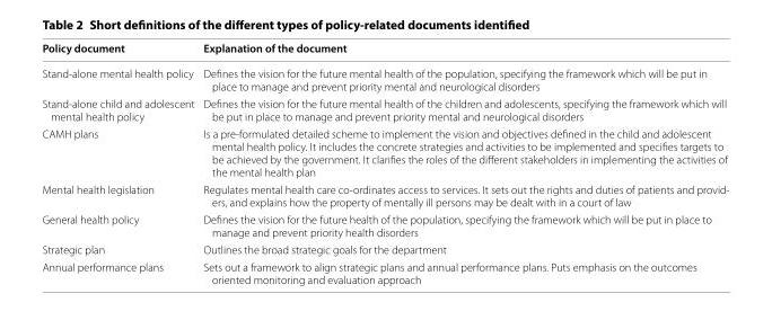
<table><thead><tr><td>Policy document</td><td>Explanation of the document</td></tr></thead><tbody><tr><td>Stand-alone mental health policy</td><td>Defines the vision for the future mental health of the population, specifying the framework which will be put in place to manage and prevent priority mental and neurological disorders</td></tr><tr><td>Stand-alone child and adolescent mental health policy</td><td>Defines the vision for the future mental health of the children and adolescents, specifying the framework which will be put in place to manage and prevent priority mental and neurological disorders</td></tr><tr><td>CAMH plans</td><td>Is a pre-formulated detailed scheme to implement the vision and objectives defined in the child and adolescent mental health policy. It includes the concrete strategies and activities to be implemented and specifies targets to be achieved by the government. It clarifies the roles of the different stakeholders in implementing the activities of the mental health plan</td></tr><tr><td>Mental health legislation</td><td>Regulates mental health care co-ordinates access to services. It sets out the rights and duties of patients and provid- ers, and explains how the property of mentally ill persons may be dealt with in a court of law</td></tr><tr><td>General health policy</td><td>Defines the vision for the future health of the population, specifying the framework which will be put in place to manage and prevent priority health disorders</td></tr><tr><td>Strategic plan</td><td>Outlines the broad strategic goals for the department</td></tr><tr><td>Annual performance plans</td><td>Sets out a framework to align strategic plans and annual performance plans. Puts emphasis on the outcomes oriented monitoring and evaluation approach</td></tr></tbody></table>